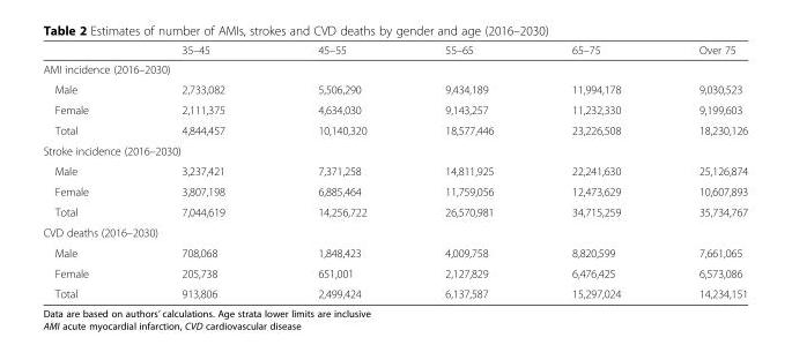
<table><thead><tr><td></td><td>35–45</td><td>45–55</td><td>55–65</td><td>65–75</td><td>Over 75</td></tr></thead><tbody><tr><td colspan="6">AMI incidence (2016–2030)</td></tr><tr><td>Male</td><td>2,733,082</td><td>5,506,290</td><td>9,434,189</td><td>11,994,178</td><td>9,030,523</td></tr><tr><td>Female</td><td>2,111,375</td><td>4,634,030</td><td>9,143,257</td><td>11,232,330</td><td>9,199,603</td></tr><tr><td>Total</td><td>4,844,457</td><td>10,140,320</td><td>18,577,446</td><td>23,226,508</td><td>18,230,126</td></tr><tr><td colspan="6">Stroke incidence (2016–2030)</td></tr><tr><td>Male</td><td>3,237,421</td><td>7,371,258</td><td>14,811,925</td><td>22,241,630</td><td>25,126,874</td></tr><tr><td>Female</td><td>3,807,198</td><td>6,885,464</td><td>11,759,056</td><td>12,473,629</td><td>10,607,893</td></tr><tr><td>Total</td><td>7,044,619</td><td>14,256,722</td><td>26,570,981</td><td>34,715,259</td><td>35,734,767</td></tr><tr><td colspan="6">CVD deaths (2016–2030)</td></tr><tr><td>Male</td><td>708,068</td><td>1,848,423</td><td>4,009,758</td><td>8,820,599</td><td>7,661,065</td></tr><tr><td>Female</td><td>205,738</td><td>651,001</td><td>2,127,829</td><td>6,476,425</td><td>6,573,086</td></tr><tr><td>Total</td><td>913,806</td><td>2,499,424</td><td>6,137,587</td><td>15,297,024</td><td>14,234,151</td></tr></tbody></table>